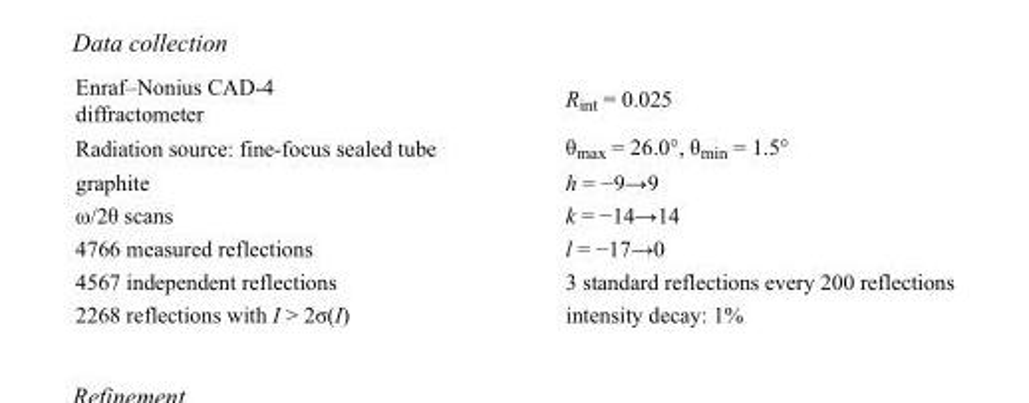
<table><tbody><tr><td>Enraf–Nonius CAD-4 diffractometer</td><td>R<sub>int</sub> = 0.025</td></tr><tr><td>Radiation source: fine-focus sealed tube</td><td>θ<sub>max</sub> = 26.0°, θ<sub>min</sub> = 1.5°</td></tr><tr><td>graphite</td><td>h = −9→9</td></tr><tr><td>ω/2θ scans</td><td>k = −14→14</td></tr><tr><td>4766 measured reflections</td><td>l = −17→0</td></tr><tr><td>4567 independent reflections</td><td>3 standard reflections every 200 reflections</td></tr><tr><td>2268 reflections with I &gt; 2σ(I)</td><td>intensity decay: 1%</td></tr></tbody></table>